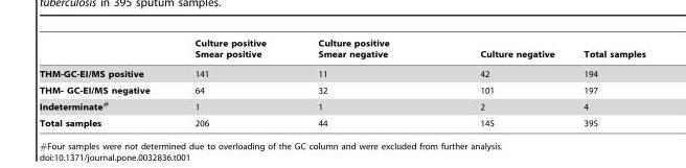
<table><thead><tr><td></td><td>Culture positive Smear positive</td><td>Culture positive Smear negative</td><td>Culture negative</td><td>Total samples</td></tr></thead><tbody><tr><td>THM-GC-EI/MS positive</td><td>141</td><td>11</td><td>42</td><td>194</td></tr><tr><td>THM- GC-EI/MS negative</td><td>64</td><td>32</td><td>101</td><td>197</td></tr><tr><td>Indeterminate#</td><td>1</td><td>1</td><td>2</td><td>4</td></tr><tr><td>Total samples</td><td>206</td><td>44</td><td>145</td><td>395</td></tr></tbody></table>